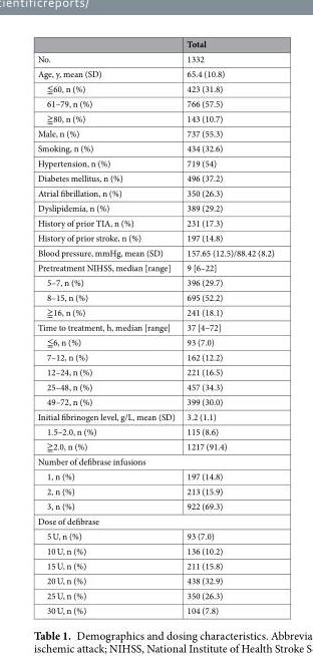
<table><thead><tr><td></td><td>Total</td></tr></thead><tbody><tr><td>No.</td><td>1332</td></tr><tr><td>Age, y, mean (SD)</td><td>65.4 (10.8)</td></tr><tr><td>≦60, n (%)</td><td>423 (31.8)</td></tr><tr><td>61–79, n (%)</td><td>766 (57.5)</td></tr><tr><td>≧80, n (%)</td><td>143 (10.7)</td></tr><tr><td>Male, n (%)</td><td>737 (55.3)</td></tr><tr><td>Smoking, n (%)</td><td>434 (32.6)</td></tr><tr><td>Hypertension, n (%)</td><td>719 (54)</td></tr><tr><td>Diabetes mellitus, n (%)</td><td>496 (37.2)</td></tr><tr><td>Atrial fibrillation, n (%)</td><td>350 (26.3)</td></tr><tr><td>Dyslipidemia, n (%)</td><td>389 (29.2)</td></tr><tr><td>History of prior TIA, n (%)</td><td>231 (17.3)</td></tr><tr><td>History of prior stroke, n (%)</td><td>197 (14.8)</td></tr><tr><td>Blood pressure, mmHg, mean (SD)</td><td>157.65 (12.5)/88.42 (8.2)</td></tr><tr><td>Pretreatment NIHSS, median [range]</td><td>9 [6–22]</td></tr><tr><td>5–7, n (%)</td><td>396 (29.7)</td></tr><tr><td>8–15, n (%)</td><td>695 (52.2)</td></tr><tr><td>≧16, n (%)</td><td>241 (18.1)</td></tr><tr><td>Time to treatment, h, median [range]</td><td>37 [4–72]</td></tr><tr><td>≦6, n (%)</td><td>93 (7.0)</td></tr><tr><td>7–12, n (%)</td><td>162 (12.2)</td></tr><tr><td>12–24, n (%)</td><td>221 (16.5)</td></tr><tr><td>25–48, n (%)</td><td>457 (34.3)</td></tr><tr><td>49–72, n (%)</td><td>399 (30.0)</td></tr><tr><td>Initial fibrinogen level, g/L, mean (SD)</td><td>3.2 (1.1)</td></tr><tr><td>1.5–2.0, n (%)</td><td>115 (8.6)</td></tr><tr><td>≧2.0, n (%)</td><td>1217 (91.4)</td></tr><tr><td colspan="2">Number of defibrase infusions</td></tr><tr><td>1, n (%)</td><td>197 (14.8)</td></tr><tr><td>2, n (%)</td><td>213 (15.9)</td></tr><tr><td>3, n (%)</td><td>922 (69.3)</td></tr><tr><td colspan="2">Dose of defibrase</td></tr><tr><td>5 U, n (%)</td><td>93 (7.0)</td></tr><tr><td>10 U, n (%)</td><td>136 (10.2)</td></tr><tr><td>15 U, n (%)</td><td>211 (15.8)</td></tr><tr><td>20 U, n (%)</td><td>438 (32.9)</td></tr><tr><td>25 U, n (%)</td><td>350 (26.3)</td></tr><tr><td>30 U, n (%)</td><td>104 (7.8)</td></tr></tbody></table>